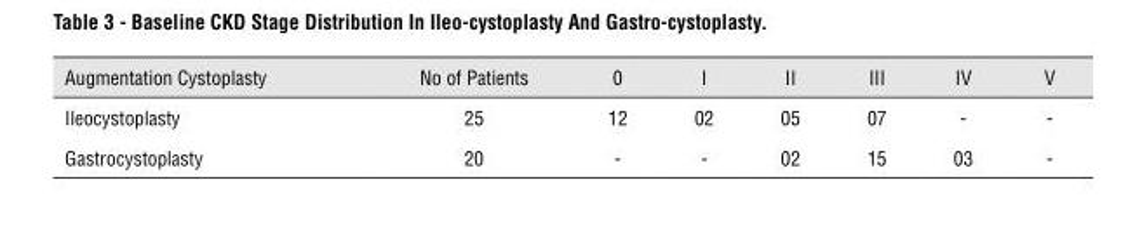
<table><thead><tr><td>Augmentation Cystoplasty</td><td>No of Patients</td><td>0</td><td>I</td><td>II</td><td>III</td><td>IV</td><td>V</td></tr></thead><tbody><tr><td>Ileocystoplasty</td><td>25</td><td>12</td><td>02</td><td>05</td><td>07</td><td>-</td><td>-</td></tr><tr><td>Gastrocystoplasty</td><td>20</td><td>-</td><td>-</td><td>02</td><td>15</td><td>03</td><td>-</td></tr></tbody></table>